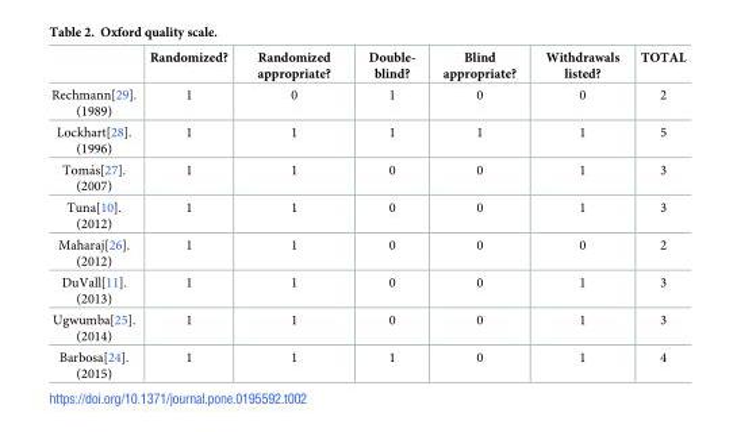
<table><thead><tr><td></td><td>Randomized?</td><td>Randomized appropriate?</td><td>Double- blind?</td><td>Blind appropriate?</td><td>Withdrawals listed?</td><td>TOTAL</td></tr></thead><tbody><tr><td>Rechmann[29]. (1989)</td><td>1</td><td>0</td><td>1</td><td>0</td><td>0</td><td>2</td></tr><tr><td>Lockhart[28]. (1996)</td><td>1</td><td>1</td><td>1</td><td>1</td><td>1</td><td>5</td></tr><tr><td>Toma´s[27]. (2007)</td><td>1</td><td>1</td><td>0</td><td>0</td><td>1</td><td>3</td></tr><tr><td>Tuna[10]. (2012)</td><td>1</td><td>1</td><td>0</td><td>0</td><td>1</td><td>3</td></tr><tr><td>Maharaj[26]. (2012)</td><td>1</td><td>1</td><td>0</td><td>0</td><td>0</td><td>2</td></tr><tr><td>DuVall[11]. (2013)</td><td>1</td><td>1</td><td>0</td><td>0</td><td>1</td><td>3</td></tr><tr><td>Ugwumba[25]. (2014)</td><td>1</td><td>1</td><td>0</td><td>0</td><td>1</td><td>3</td></tr><tr><td>Barbosa[24]. (2015)</td><td>1</td><td>1</td><td>1</td><td>0</td><td>1</td><td>4</td></tr></tbody></table>